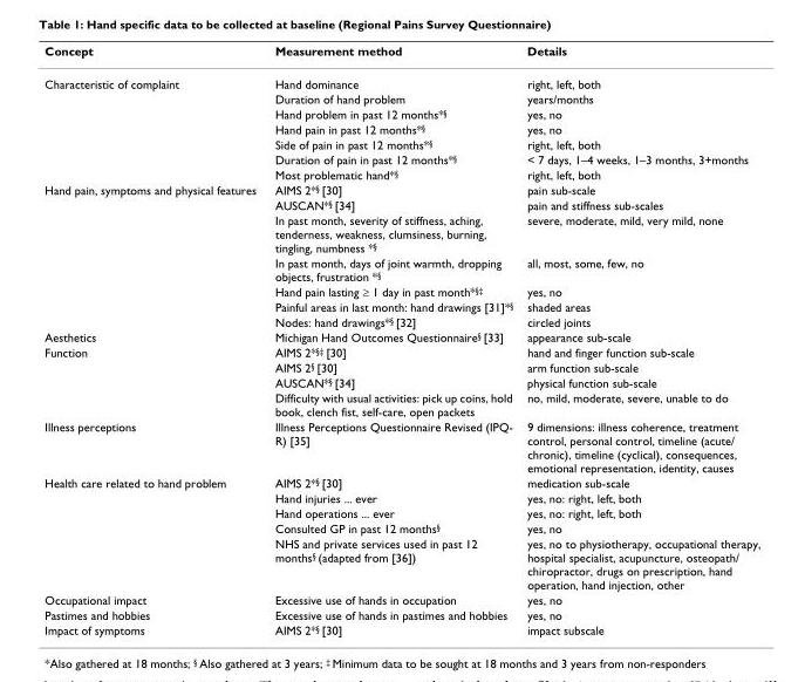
<table><thead><tr><td>Concept</td><td>Measurement method</td><td>Details</td></tr></thead><tbody><tr><td rowspan="7">Characteristic of complaint</td><td>Hand dominance</td><td>right, left, both</td></tr><tr><td>Duration of hand problem</td><td>years/months</td></tr><tr><td>Hand problem in past 12 months*<sup>§</sup></td><td>yes, no</td></tr><tr><td>Hand pain in past 12 months*<sup>§</sup></td><td>yes, no</td></tr><tr><td>Side of pain in past 12 months*<sup>§</sup></td><td>right, left, both</td></tr><tr><td>Duration of pain in past 12 months*<sup>§</sup></td><td>&lt; 7 days, 1–4 weeks, 1–3 months, 3+months</td></tr><tr><td>Most problematic hand*<sup>§</sup></td><td>right, left, both</td></tr><tr><td rowspan="7">Hand pain, symptoms and physical features</td><td>AIMS 2*<sup>§</sup> [30]</td><td>pain sub-scale</td></tr><tr><td>AUSCAN*<sup>§</sup> [34]</td><td>pain and stiffness sub-scales</td></tr><tr><td>In past month, severity of stiffness, aching, tenderness, weakness, clumsiness, burning, tingling, numbness *<sup>§</sup></td><td>severe, moderate, mild, very mild, none</td></tr><tr><td>In past month, days of joint warmth, dropping objects, frustration *<sup>§</sup></td><td>all, most, some, few, no</td></tr><tr><td>Hand pain lasting ≥ 1 day in past month*<sup>§‡</sup></td><td>yes, no</td></tr><tr><td>Painful areas in last month: hand drawings [31]*<sup>§</sup></td><td>shaded areas</td></tr><tr><td>Nodes: hand drawings*<sup>§</sup> [32]</td><td>circled joints</td></tr><tr><td>Aesthetics</td><td>Michigan Hand Outcomes Questionnaire<sup>§</sup> [33]</td><td>appearance sub-scale</td></tr><tr><td rowspan="4">Function</td><td>AIMS 2*<sup>§‡</sup> [30]</td><td>hand and finger function sub-scale</td></tr><tr><td>AIMS 2<sup>§</sup> [30]</td><td>arm function sub-scale</td></tr><tr><td>AUSCAN*<sup>§</sup> [34]</td><td>physical function sub-scale</td></tr><tr><td>Difficulty with usual activities: pick up coins, hold book, clench fist, self-care, open packets</td><td>no, mild, moderate, severe, unable to do</td></tr><tr><td>Illness perceptions</td><td>Illness Perceptions Questionnaire Revised (IPQ- R) [35]</td><td>9 dimensions: illness coherence, treatment control, personal control, timeline (acute/ chronic), timeline (cyclical), consequences, emotional representation, identity, causes</td></tr><tr><td rowspan="5">Health care related to hand problem</td><td>AIMS 2*<sup>§</sup> [30]</td><td>medication sub-scale</td></tr><tr><td>Hand injuries ... ever</td><td>yes, no: right, left, both</td></tr><tr><td>Hand operations ... ever</td><td>yes, no: right, left, both</td></tr><tr><td>Consulted GP in past 12 months<sup>§</sup></td><td>yes, no</td></tr><tr><td>NHS and private services used in past 12 months<sup>§</sup> (adapted from [36])</td><td>yes, no to physiotherapy, occupational therapy, hospital specialist, acupuncture, osteopath/ chiropractor, drugs on prescription, hand operation, hand injection, other</td></tr><tr><td>Occupational impact</td><td>Excessive use of hands in occupation</td><td>yes, no</td></tr><tr><td>Pastimes and hobbies</td><td>Excessive use of hands in pastimes and hobbies</td><td>yes, no</td></tr><tr><td>Impact of symptoms</td><td>AIMS 2*<sup>§</sup> [30]</td><td>impact subscale</td></tr></tbody></table>